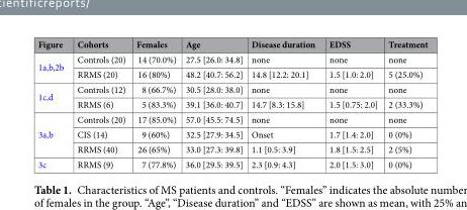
<table><thead><tr><td>Figure</td><td>Cohorts</td><td>Females</td><td>Age</td><td>Disease duration</td><td>EDSS</td><td>Treatment</td></tr></thead><tbody><tr><td rowspan="2">1a,b,2b</td><td>Controls (20)</td><td>14 (70.0%)</td><td>27.5 [26.0: 34.8]</td><td>none</td><td>none</td><td>none</td></tr><tr><td>RRMS (20)</td><td>16 (80%)</td><td>48.2 [40.7: 56.2]</td><td>14.8 [12.2: 20.1]</td><td>1.5 [1.0: 2.0]</td><td>5 (25.0%)</td></tr><tr><td rowspan="2">1c,d</td><td>Controls (12)</td><td>8 (66.7%)</td><td>30.5 [28.0: 38.0]</td><td>none</td><td>none</td><td>none</td></tr><tr><td>RRMS (6)</td><td>5 (83.3%)</td><td>39.1 [36.0: 40.7]</td><td>14.7 [8.3: 15.8]</td><td>1.5 [0.75: 2.0]</td><td>2 (33.3%)</td></tr><tr><td rowspan="3">3a,b</td><td>Controls (20)</td><td>17 (85.0%)</td><td>57.0 [45.5: 74.5]</td><td>none</td><td>none</td><td>none</td></tr><tr><td>CIS (14)</td><td>9 (60%)</td><td>32.5 [27.9: 34.5]</td><td>Onset</td><td>1.7 [1.4: 2.0]</td><td>0 (0%)</td></tr><tr><td>RRMS (40)</td><td>26 (65%)</td><td>33.0 [27.3: 39.8]</td><td>1.1 [0.5: 3.9]</td><td>1.8 [1.5: 2.5]</td><td>2 (5%)</td></tr><tr><td>3c</td><td>RRMS (9)</td><td>7 (77.8%)</td><td>36.0 [29.5: 39.5]</td><td>2.3 [0.9: 4.3]</td><td>2.0 [1.5: 3.0]</td><td>0 (0%)</td></tr></tbody></table>